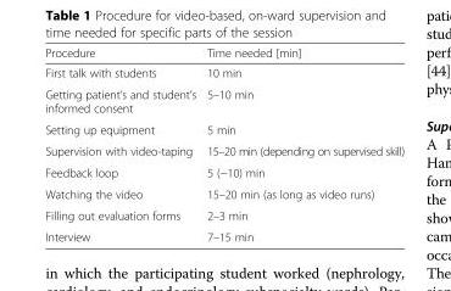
<table><thead><tr><td>Procedure</td><td>Time needed [min]</td></tr></thead><tbody><tr><td>First talk with students</td><td>10 min</td></tr><tr><td>Getting patient’s and student’s informed consent</td><td>5–10 min</td></tr><tr><td>Setting up equipment</td><td>5 min</td></tr><tr><td>Supervision with video-taping</td><td>15–20 min (depending on supervised skill)</td></tr><tr><td>Feedback loop</td><td>5 (−10) min</td></tr><tr><td>Watching the video</td><td>15–20 min (as long as video runs)</td></tr><tr><td>Filling out evaluation forms</td><td>2–3 min</td></tr><tr><td>Interview</td><td>7–15 min</td></tr></tbody></table>